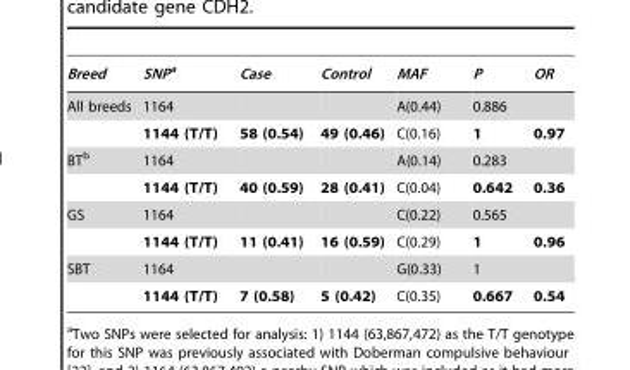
<table><thead><tr><td>Breed</td><td>SNPa</td><td>Case</td><td>Control</td><td>MAF</td><td>P</td><td>OR</td></tr></thead><tbody><tr><td rowspan="2">All breeds</td><td>1164</td><td></td><td></td><td>A(0.44)</td><td>0.886</td><td></td></tr><tr><td>1144 (T/T)</td><td>58 (0.54)</td><td>49 (0.46)</td><td>C(0.16)</td><td>1</td><td>0.97</td></tr><tr><td rowspan="2">BT<sup>b</sup></td><td>1164</td><td></td><td></td><td>A(0.14)</td><td>0.283</td><td></td></tr><tr><td>1144 (T/T)</td><td>40 (0.59)</td><td>28 (0.41)</td><td>C(0.04)</td><td>0.642</td><td>0.36</td></tr><tr><td rowspan="2">GS</td><td>1164</td><td></td><td></td><td>C(0.22)</td><td>0.565</td><td></td></tr><tr><td>1144 (T/T)</td><td>11 (0.41)</td><td>16 (0.59)</td><td>C(0.29)</td><td>1</td><td>0.96</td></tr><tr><td rowspan="2">SBT</td><td>1164</td><td></td><td></td><td>G(0.33)</td><td>1</td><td></td></tr><tr><td>1144 (T/T)</td><td>7 (0.58)</td><td>5 (0.42)</td><td>C(0.35)</td><td>0.667</td><td>0.54</td></tr></tbody></table>